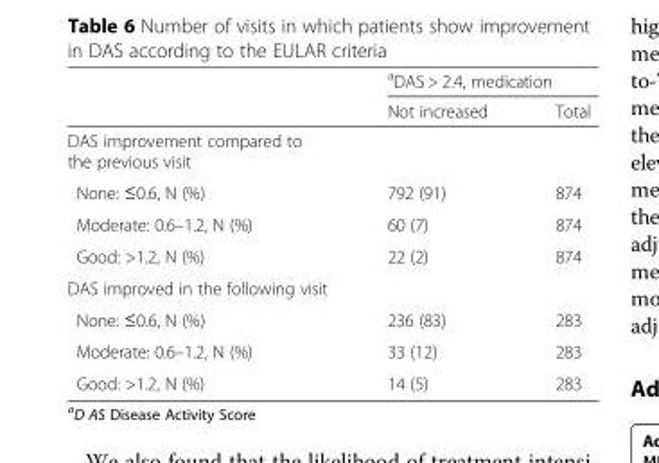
<table><thead><tr><td rowspan="2"></td><td colspan="2"><sup>a</sup>DAS &gt; 2.4, medication</td></tr><tr><td>Not increased</td><td>Total</td></tr></thead><tbody><tr><td colspan="3">DAS improvement compared to the previous visit</td></tr><tr><td>None: ≤0.6, N (%)</td><td>792 (91)</td><td>874</td></tr><tr><td>Moderate: 0.6–1.2, N (%)</td><td>60 (7)</td><td>874</td></tr><tr><td>Good: &gt;1.2, N (%)</td><td>22 (2)</td><td>874</td></tr><tr><td colspan="3">DAS improved in the following visit</td></tr><tr><td>None: ≤0.6, N (%)</td><td>236 (83)</td><td>283</td></tr><tr><td>Moderate: 0.6–1.2, N (%)</td><td>33 (12)</td><td>283</td></tr><tr><td>Good: &gt;1.2, N (%)</td><td>14 (5)</td><td>283</td></tr></tbody></table>